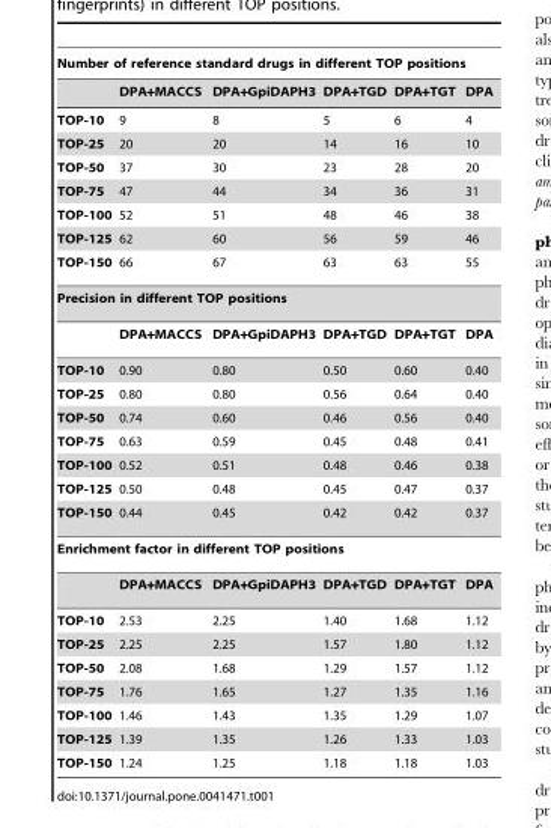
<table><thead><tr><td colspan="6">Number of reference standard drugs in different TOP positions</td></tr><tr><td></td><td>DPA+MACCS</td><td>DPA+GpiDAPH3</td><td>DPA+TGD</td><td>DPA+TGT</td><td>DPA</td></tr></thead><tbody><tr><td>TOP-10</td><td>9</td><td>8</td><td>5</td><td>6</td><td>4</td></tr><tr><td>TOP-25</td><td>20</td><td>20</td><td>14</td><td>16</td><td>10</td></tr><tr><td>TOP-50</td><td>37</td><td>30</td><td>23</td><td>28</td><td>20</td></tr><tr><td>TOP-75</td><td>47</td><td>44</td><td>34</td><td>36</td><td>31</td></tr><tr><td>TOP-100</td><td>52</td><td>51</td><td>48</td><td>46</td><td>38</td></tr><tr><td>TOP-125</td><td>62</td><td>60</td><td>56</td><td>59</td><td>46</td></tr><tr><td>TOP-150</td><td>66</td><td>67</td><td>63</td><td>63</td><td>55</td></tr><tr><td colspan="6">Precision in different TOP positions</td></tr><tr><td></td><td>DPA+MACCS</td><td>DPA+GpiDAPH3</td><td>DPA+TGD</td><td>DPA+TGT</td><td>DPA</td></tr><tr><td>TOP-10</td><td>0.90</td><td>0.80</td><td>0.50</td><td>0.60</td><td>0.40</td></tr><tr><td>TOP-25</td><td>0.80</td><td>0.80</td><td>0.56</td><td>0.64</td><td>0.40</td></tr><tr><td>TOP-50</td><td>0.74</td><td>0.60</td><td>0.46</td><td>0.56</td><td>0.40</td></tr><tr><td>TOP-75</td><td>0.63</td><td>0.59</td><td>0.45</td><td>0.48</td><td>0.41</td></tr><tr><td>TOP-100</td><td>0.52</td><td>0.51</td><td>0.48</td><td>0.46</td><td>0.38</td></tr><tr><td>TOP-125</td><td>0.50</td><td>0.48</td><td>0.45</td><td>0.47</td><td>0.37</td></tr><tr><td>TOP-150</td><td>0.44</td><td>0.45</td><td>0.42</td><td>0.42</td><td>0.37</td></tr><tr><td colspan="6">Enrichment factor in different TOP positions</td></tr><tr><td></td><td>DPA+MACCS</td><td>DPA+GpiDAPH3</td><td>DPA+TGD</td><td>DPA+TGT</td><td>DPA</td></tr><tr><td>TOP-10</td><td>2.53</td><td>2.25</td><td>1.40</td><td>1.68</td><td>1.12</td></tr><tr><td>TOP-25</td><td>2.25</td><td>2.25</td><td>1.57</td><td>1.80</td><td>1.12</td></tr><tr><td>TOP-50</td><td>2.08</td><td>1.68</td><td>1.29</td><td>1.57</td><td>1.12</td></tr><tr><td>TOP-75</td><td>1.76</td><td>1.65</td><td>1.27</td><td>1.35</td><td>1.16</td></tr><tr><td>TOP-100</td><td>1.46</td><td>1.43</td><td>1.35</td><td>1.29</td><td>1.07</td></tr><tr><td>TOP-125</td><td>1.39</td><td>1.35</td><td>1.26</td><td>1.33</td><td>1.03</td></tr><tr><td>TOP-150</td><td>1.24</td><td>1.25</td><td>1.18</td><td>1.18</td><td>1.03</td></tr></tbody></table>